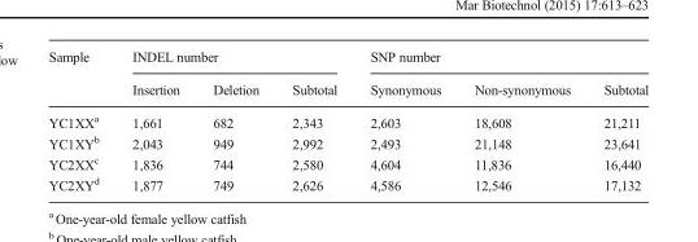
<table><thead><tr><td rowspan="2">Sample</td><td colspan="3">INDEL number</td><td colspan="3">SNP number</td></tr><tr><td>Insertion</td><td>Deletion</td><td>Subtotal</td><td>Synonymous</td><td>Non-synonymous</td><td>Subtotal</td></tr></thead><tbody><tr><td>YC1XX<sup>a</sup></td><td>1,661</td><td>682</td><td>2,343</td><td>2,603</td><td>18,608</td><td>21,211</td></tr><tr><td>YC1XY<sup>b</sup></td><td>2,043</td><td>949</td><td>2,992</td><td>2,493</td><td>21,148</td><td>23,641</td></tr><tr><td>YC2XX<sup>c</sup></td><td>1,836</td><td>744</td><td>2,580</td><td>4,604</td><td>11,836</td><td>16,440</td></tr><tr><td>YC2XY<sup>d</sup></td><td>1,877</td><td>749</td><td>2,626</td><td>4,586</td><td>12,546</td><td>17,132</td></tr></tbody></table>